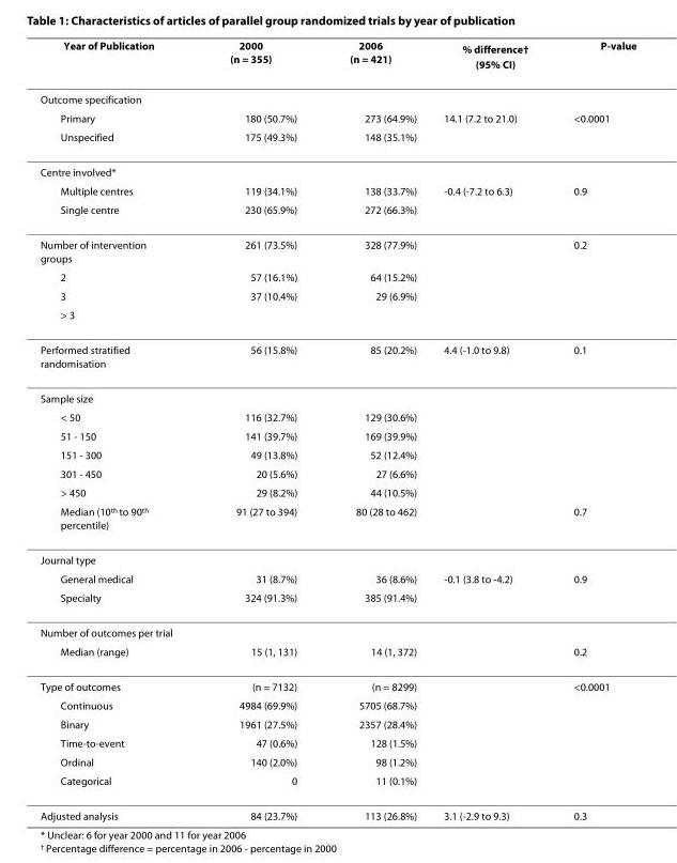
<table><thead><tr><td>Year of Publication</td><td>2000 (n = 355)</td><td>2006 (n = 421)</td><td>% difference<sup>†</sup> (95% CI)</td><td>P-value</td></tr></thead><tbody><tr><td colspan="5">Outcome specification</td></tr><tr><td>Primary</td><td>180 (50.7%)</td><td>273 (64.9%)</td><td>14.1 (7.2 to 21.0)</td><td>&lt;0.0001</td></tr><tr><td>Unspecified</td><td>175 (49.3%)</td><td>148 (35.1%)</td><td></td><td></td></tr><tr><td colspan="5">Centre involved*</td></tr><tr><td>Multiple centres</td><td>119 (34.1%)</td><td>138 (33.7%)</td><td>-0.4 (-7.2 to 6.3)</td><td>0.9</td></tr><tr><td>Single centre</td><td>230 (65.9%)</td><td>272 (66.3%)</td><td></td><td></td></tr><tr><td>Number of intervention groups</td><td>261 (73.5%)</td><td>328 (77.9%)</td><td></td><td>0.2</td></tr><tr><td>2</td><td>57 (16.1%)</td><td>64 (15.2%)</td><td></td><td></td></tr><tr><td>3</td><td>37 (10.4%)</td><td>29 (6.9%)</td><td></td><td></td></tr><tr><td colspan="5">&gt; 3</td></tr><tr><td>Performed stratified randomisation</td><td>56 (15.8%)</td><td>85 (20.2%)</td><td>4.4 (-1.0 to 9.8)</td><td>0.1</td></tr><tr><td colspan="5">Sample size</td></tr><tr><td>&lt; 50</td><td>116 (32.7%)</td><td>129 (30.6%)</td><td></td><td></td></tr><tr><td>51 - 150</td><td>141 (39.7%)</td><td>169 (39.9%)</td><td></td><td></td></tr><tr><td>151 - 300</td><td>49 (13.8%)</td><td>52 (12.4%)</td><td></td><td></td></tr><tr><td>301 - 450</td><td>20 (5.6%)</td><td>27 (6.6%)</td><td></td><td></td></tr><tr><td>&gt; 450</td><td>29 (8.2%)</td><td>44 (10.5%)</td><td></td><td></td></tr><tr><td>Median (10<sup>th</sup> to 90<sup>th</sup> percentile)</td><td>91 (27 to 394)</td><td>80 (28 to 462)</td><td></td><td>0.7</td></tr><tr><td colspan="5">Journal type</td></tr><tr><td>General medical</td><td>31 (8.7%)</td><td>36 (8.6%)</td><td>-0.1 (3.8 to -4.2)</td><td>0.9</td></tr><tr><td>Specialty</td><td>324 (91.3%)</td><td>385 (91.4%)</td><td></td><td></td></tr><tr><td colspan="5">Number of outcomes per trial</td></tr><tr><td>Median (range)</td><td>15 (1, 131)</td><td>14 (1, 372)</td><td></td><td>0.2</td></tr><tr><td>Type of outcomes</td><td>(n = 7132)</td><td>(n = 8299)</td><td></td><td>&lt;0.0001</td></tr><tr><td>Continuous</td><td>4984 (69.9%)</td><td>5705 (68.7%)</td><td></td><td></td></tr><tr><td>Binary</td><td>1961 (27.5%)</td><td>2357 (28.4%)</td><td></td><td></td></tr><tr><td>Time-to-event</td><td>47 (0.6%)</td><td>128 (1.5%)</td><td></td><td></td></tr><tr><td>Ordinal</td><td>140 (2.0%)</td><td>98 (1.2%)</td><td></td><td></td></tr><tr><td>Categorical</td><td>0</td><td>11 (0.1%)</td><td></td><td></td></tr><tr><td>Adjusted analysis</td><td>84 (23.7%)</td><td>113 (26.8%)</td><td>3.1 (-2.9 to 9.3)</td><td>0.3</td></tr></tbody></table>